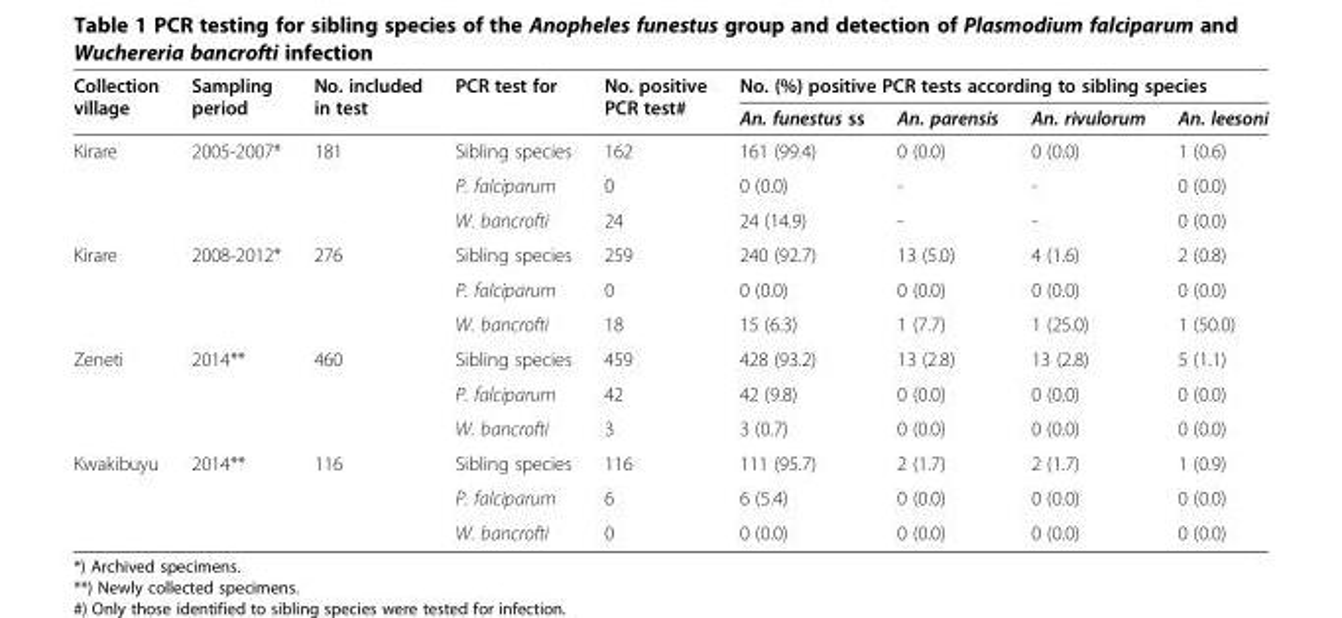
<table><thead><tr><td rowspan="2">Collection village</td><td rowspan="2">Sampling period</td><td rowspan="2">No. included in test</td><td rowspan="2">PCR test for</td><td rowspan="2">No. positive PCR test#</td><td colspan="4">No. (%) positive PCR tests according to sibling species</td></tr><tr><td>An. funestus ss</td><td>An. parensis</td><td>An. rivulorum</td><td>An. leesoni</td></tr></thead><tbody><tr><td rowspan="3">Kirare</td><td>2005-2007*</td><td>181</td><td>Sibling species</td><td>162</td><td>161 (99.4)</td><td>0 (0.0)</td><td>0 (0.0)</td><td>1 (0.6)</td></tr><tr><td></td><td></td><td>P. falciparum</td><td>0</td><td>0 (0.0)</td><td>-</td><td>-</td><td>0 (0.0)</td></tr><tr><td></td><td></td><td>W. bancrofti</td><td>24</td><td>24 (14.9)</td><td>-</td><td>-</td><td>0 (0.0)</td></tr><tr><td rowspan="3">Kirare</td><td rowspan="3">2008-2012*</td><td rowspan="3">276</td><td>Sibling species</td><td>259</td><td>240 (92.7)</td><td>13 (5.0)</td><td>4 (1.6)</td><td>2 (0.8)</td></tr><tr><td>P. falciparum</td><td>0</td><td>0 (0.0)</td><td>0 (0.0)</td><td>0 (0.0)</td><td>0 (0.0)</td></tr><tr><td>W. bancrofti</td><td>18</td><td>15 (6.3)</td><td>1 (7.7)</td><td>1 (25.0)</td><td>1 (50.0)</td></tr><tr><td rowspan="3">Zeneti</td><td rowspan="3">2014**</td><td rowspan="3">460</td><td>Sibling species</td><td>459</td><td>428 (93.2)</td><td>13 (2.8)</td><td>13 (2.8)</td><td>5 (1.1)</td></tr><tr><td>P. falciparum</td><td>42</td><td>42 (9.8)</td><td>0 (0.0)</td><td>0 (0.0)</td><td>0 (0.0)</td></tr><tr><td>W. bancrofti</td><td>3</td><td>3 (0.7)</td><td>0 (0.0)</td><td>0 (0.0)</td><td>0 (0.0)</td></tr><tr><td rowspan="3">Kwakibuyu</td><td rowspan="3">2014**</td><td rowspan="3">116</td><td>Sibling species</td><td>116</td><td>111 (95.7)</td><td>2 (1.7)</td><td>2 (1.7)</td><td>1 (0.9)</td></tr><tr><td>P. falciparum</td><td>6</td><td>6 (5.4)</td><td>0 (0.0)</td><td>0 (0.0)</td><td>0 (0.0)</td></tr><tr><td>W. bancrofti</td><td>0</td><td>0 (0.0)</td><td>0 (0.0)</td><td>0 (0.0)</td><td>0 (0.0)</td></tr></tbody></table>